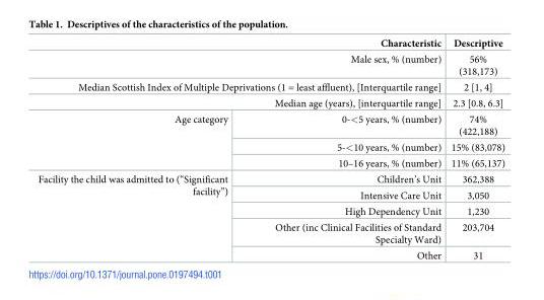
<table><thead><tr><td colspan="2">Characteristic</td><td>Descriptive</td></tr></thead><tbody><tr><td colspan="2">Male sex, % (number)</td><td>56% (318,173)</td></tr><tr><td colspan="2">Median Scottish Index of Multiple Deprivations (1 = least affluent), [Interquartile range]</td><td>2 [1, 4]</td></tr><tr><td colspan="2">Median age (years), [interquartile range]</td><td>2.3 [0.8, 6.3]</td></tr><tr><td rowspan="3">Age category</td><td>0-&lt;5 years, % (number)</td><td>74% (422,188)</td></tr><tr><td>5-&lt;10 years, % (number)</td><td>15% (83,078)</td></tr><tr><td>10–16 years, % (number)</td><td>11% (65,137)</td></tr><tr><td rowspan="5">Facility the child was admitted to (“Significant facility”)</td><td>Children’s Unit</td><td>362,388</td></tr><tr><td>Intensive Care Unit</td><td>3,050</td></tr><tr><td>High Dependency Unit</td><td>1,230</td></tr><tr><td>Other (inc Clinical Facilities of Standard Specialty Ward)</td><td>203,704</td></tr><tr><td>Other</td><td>31</td></tr></tbody></table>